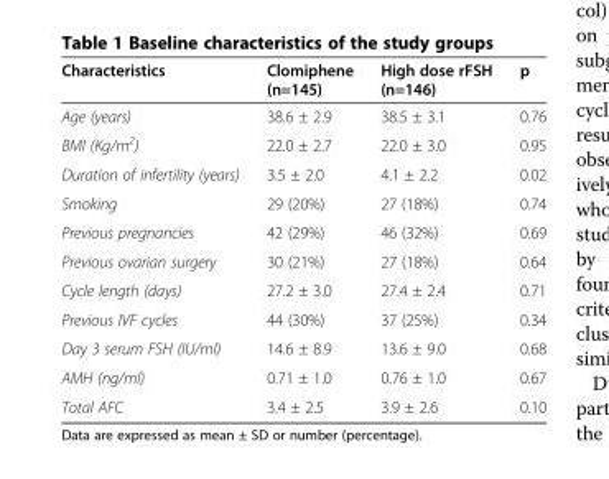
<table><thead><tr><td>Characteristics</td><td>Clomiphene (n=145)</td><td>High dose rFSH (n=146)</td><td>p</td></tr></thead><tbody><tr><td>Age (years)</td><td>38.6 ± 2.9</td><td>38.5 ± 3.1</td><td>0.76</td></tr><tr><td>BMI (Kg/m<sup>2</sup>)</td><td>22.0 ± 2.7</td><td>22.0 ± 3.0</td><td>0.95</td></tr><tr><td>Duration of infertility (years)</td><td>3.5 ± 2.0</td><td>4.1 ± 2.2</td><td>0.02</td></tr><tr><td>Smoking</td><td>29 (20%)</td><td>27 (18%)</td><td>0.74</td></tr><tr><td>Previous pregnancies</td><td>42 (29%)</td><td>46 (32%)</td><td>0.69</td></tr><tr><td>Previous ovarian surgery</td><td>30 (21%)</td><td>27 (18%)</td><td>0.64</td></tr><tr><td>Cycle length (days)</td><td>27.2 ± 3.0</td><td>27.4 ± 2.4</td><td>0.71</td></tr><tr><td>Previous IVF cycles</td><td>44 (30%)</td><td>37 (25%)</td><td>0.34</td></tr><tr><td>Day 3 serum FSH (IU/ml)</td><td>14.6 ± 8.9</td><td>13.6 ± 9.0</td><td>0.68</td></tr><tr><td>AMH (ng/ml)</td><td>0.71 ± 1.0</td><td>0.76 ± 1.0</td><td>0.67</td></tr><tr><td>Total AFC</td><td>3.4 ± 2.5</td><td>3.9 ± 2.6</td><td>0.10</td></tr></tbody></table>